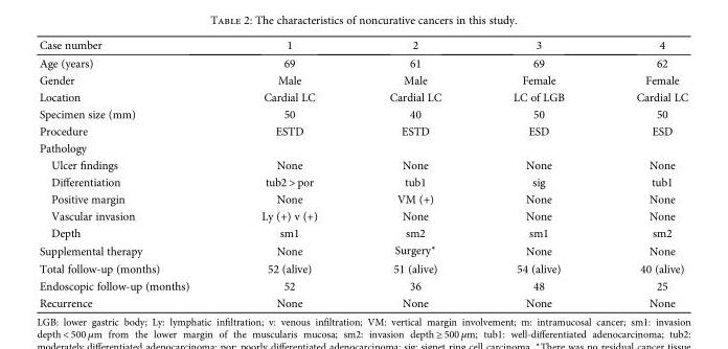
<table><thead><tr><td>Case number</td><td>1</td><td>2</td><td>3</td><td>4</td></tr></thead><tbody><tr><td>Age (years)</td><td>69</td><td>61</td><td>69</td><td>62</td></tr><tr><td>Gender</td><td>Male</td><td>Male</td><td>Female</td><td>Female</td></tr><tr><td>Location</td><td>Cardial LC</td><td>Cardial LC</td><td>LC of LGB</td><td>Cardial LC</td></tr><tr><td>Specimen size (mm)</td><td>50</td><td>40</td><td>50</td><td>50</td></tr><tr><td>Procedure</td><td>ESTD</td><td>ESTD</td><td>ESD</td><td>ESD</td></tr><tr><td colspan="5">Pathology</td></tr><tr><td>Ulcer findings</td><td>None</td><td>None</td><td>None</td><td>None</td></tr><tr><td>Differentiation</td><td>tub2 &gt; por</td><td>tub1</td><td>sig</td><td>tub1</td></tr><tr><td>Positive margin</td><td>None</td><td>VM (+)</td><td>None</td><td>None</td></tr><tr><td>Vascular invasion</td><td>Ly (+) v (+)</td><td>None</td><td>None</td><td>None</td></tr><tr><td>Depth</td><td>sm1</td><td>sm2</td><td>sm1</td><td>sm2</td></tr><tr><td>Supplemental therapy</td><td>None</td><td>Surgery∗</td><td>None</td><td>None</td></tr><tr><td>Total follow-up (months)</td><td>52 (alive)</td><td>51 (alive)</td><td>54 (alive)</td><td>40 (alive)</td></tr><tr><td>Endoscopic follow-up (months)</td><td>52</td><td>36</td><td>48</td><td>25</td></tr><tr><td>Recurrence</td><td>None</td><td>None</td><td>None</td><td>None</td></tr></tbody></table>